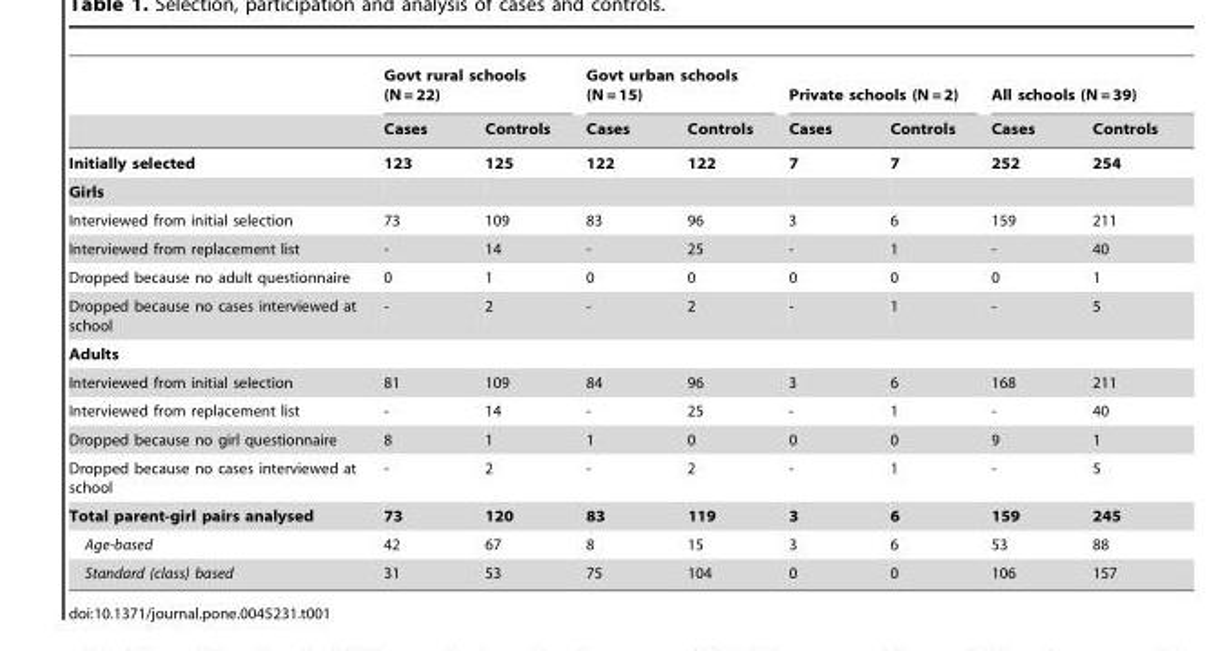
<table><thead><tr><td rowspan="2"></td><td colspan="2">Govt rural schools (N = 22)</td><td colspan="2">Govt urban schools (N = 15)</td><td colspan="2">Private schools (N = 2)</td><td colspan="2">All schools (N = 39)</td></tr><tr><td>Cases</td><td>Controls</td><td>Cases</td><td>Controls</td><td>Cases</td><td>Controls</td><td>Cases</td><td>Controls</td></tr></thead><tbody><tr><td>Initially selected</td><td>123</td><td>125</td><td>122</td><td>122</td><td>7</td><td>7</td><td>252</td><td>254</td></tr><tr><td colspan="9">Girls</td></tr><tr><td>Interviewed from initial selection</td><td>73</td><td>109</td><td>83</td><td>96</td><td>3</td><td>6</td><td>159</td><td>211</td></tr><tr><td>Interviewed from replacement list</td><td>-</td><td>14</td><td>-</td><td>25</td><td>-</td><td>1</td><td>-</td><td>40</td></tr><tr><td>Dropped because no adult questionnaire</td><td>0</td><td>1</td><td>0</td><td>0</td><td>0</td><td>0</td><td>0</td><td>1</td></tr><tr><td>Dropped because no cases interviewed at school</td><td>-</td><td>2</td><td>-</td><td>2</td><td>-</td><td>1</td><td>-</td><td>5</td></tr><tr><td colspan="9">Adults</td></tr><tr><td>Interviewed from initial selection</td><td>81</td><td>109</td><td>84</td><td>96</td><td>3</td><td>6</td><td>168</td><td>211</td></tr><tr><td>Interviewed from replacement list</td><td>-</td><td>14</td><td>-</td><td>25</td><td>-</td><td>1</td><td>-</td><td>40</td></tr><tr><td>Dropped because no girl questionnaire</td><td>8</td><td>1</td><td>1</td><td>0</td><td>0</td><td>0</td><td>9</td><td>1</td></tr><tr><td>Dropped because no cases interviewed at school</td><td>-</td><td>2</td><td>-</td><td>2</td><td>-</td><td>1</td><td>-</td><td>5</td></tr><tr><td>Total parent-girl pairs analysed</td><td>73</td><td>120</td><td>83</td><td>119</td><td>3</td><td>6</td><td>159</td><td>245</td></tr><tr><td>Age-based</td><td>42</td><td>67</td><td>8</td><td>15</td><td>3</td><td>6</td><td>53</td><td>88</td></tr><tr><td>Standard (class) based</td><td>31</td><td>53</td><td>75</td><td>104</td><td>0</td><td>0</td><td>106</td><td>157</td></tr></tbody></table>